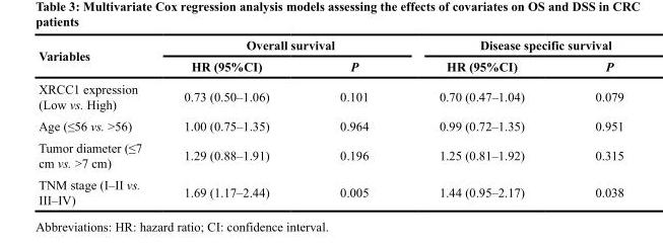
<table><thead><tr><td rowspan="2">Variables</td><td colspan="2">Overall survival</td><td colspan="2">Disease specific survival</td></tr><tr><td>HR (95%CI)</td><td>P</td><td>HR (95%CI)</td><td>P</td></tr></thead><tbody><tr><td>XRCC1 expression (Low vs. High)</td><td>0.73 (0.50–1.06)</td><td>0.101</td><td>0.70 (0.47–1.04)</td><td>0.079</td></tr><tr><td>Age (≤56 vs. &gt;56)</td><td>1.00 (0.75–1.35)</td><td>0.964</td><td>0.99 (0.72–1.35)</td><td>0.951</td></tr><tr><td>Tumor diameter (≤7 cm vs. &gt;7 cm)</td><td>1.29 (0.88–1.91)</td><td>0.196</td><td>1.25 (0.81–1.92)</td><td>0.315</td></tr><tr><td>TNM stage (I–II vs. III–IV)</td><td>1.69 (1.17–2.44)</td><td>0.005</td><td>1.44 (0.95–2.17)</td><td>0.038</td></tr></tbody></table>